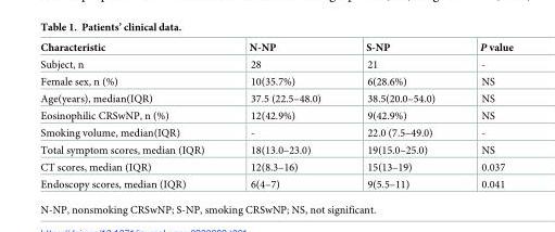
<table><thead><tr><td>Characteristic</td><td>N-NP</td><td>S-NP</td><td>P value</td></tr></thead><tbody><tr><td>Subject, n</td><td>28</td><td>21</td><td>-</td></tr><tr><td>Female sex, n (%)</td><td>10(35.7%)</td><td>6(28.6%)</td><td>NS</td></tr><tr><td>Age(years), median(IQR)</td><td>37.5 (22.5–48.0)</td><td>38.5(20.0–54.0)</td><td>NS</td></tr><tr><td>Eosinophilic CRSwNP, n (%)</td><td>12(42.9%)</td><td>9(42.9%)</td><td>NS</td></tr><tr><td>Smoking volume, median(IQR)</td><td>-</td><td>22.0 (7.5–49.0)</td><td>-</td></tr><tr><td>Total symptom scores, median (IQR)</td><td>18(13.0–23.0)</td><td>19(15.0–25.0)</td><td>NS</td></tr><tr><td>CT scores, median (IQR)</td><td>12(8.3–16)</td><td>15(13–19)</td><td>0.037</td></tr><tr><td>Endoscopy scores, median (IQR)</td><td>6(4–7)</td><td>9(5.5–11)</td><td>0.041</td></tr></tbody></table>